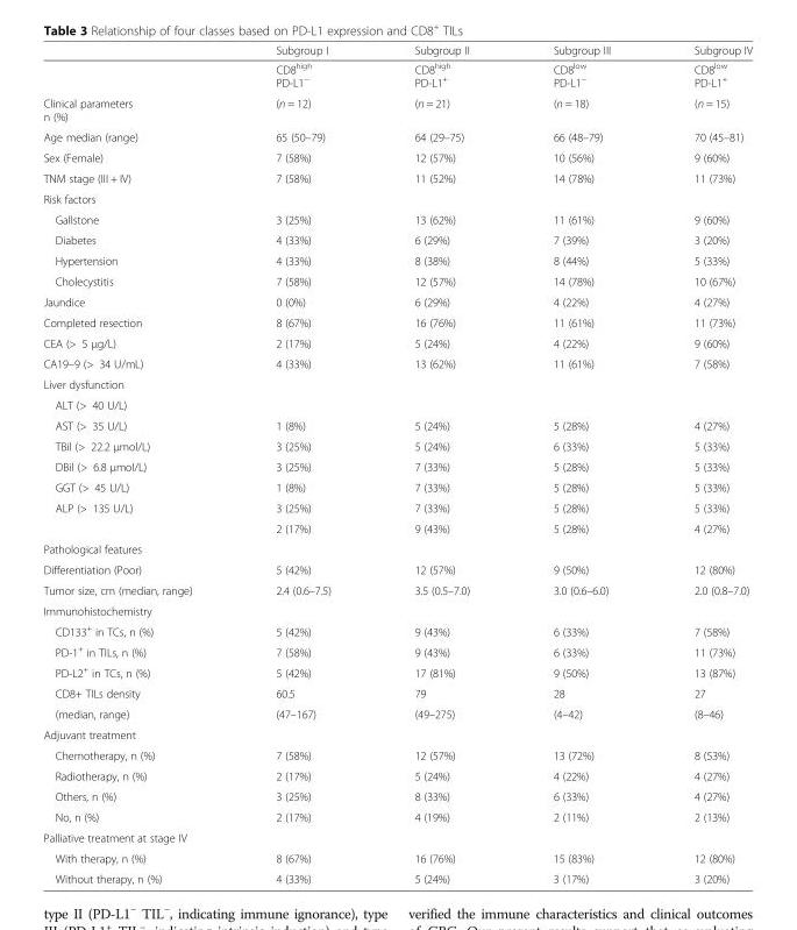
<table><thead><tr><td></td><td>Subgroup I</td><td>Subgroup II</td><td>Subgroup III</td><td>Subgroup IV</td></tr></thead><tbody><tr><td></td><td>CD8<sup>high</sup> PD-L1<sup>−</sup></td><td>CD8<sup>high</sup> PD-L1<sup>+</sup></td><td>CD8<sup>low</sup> PD-L1<sup>−</sup></td><td>CD8<sup>low</sup> PD-L1<sup>+</sup></td></tr><tr><td>Clinical parameters n (%)</td><td>(n = 12)</td><td>(n = 21)</td><td>(n = 18)</td><td>(n = 15)</td></tr><tr><td>Age median (range)</td><td>65 (50–79)</td><td>64 (29–75)</td><td>66 (48–79)</td><td>70 (45–81)</td></tr><tr><td>Sex (Female)</td><td>7 (58%)</td><td>12 (57%)</td><td>10 (56%)</td><td>9 (60%)</td></tr><tr><td>TNM stage (III + IV)</td><td>7 (58%)</td><td>11 (52%)</td><td>14 (78%)</td><td>11 (73%)</td></tr><tr><td colspan="5">Risk factors</td></tr><tr><td>Gallstone</td><td>3 (25%)</td><td>13 (62%)</td><td>11 (61%)</td><td>9 (60%)</td></tr><tr><td>Diabetes</td><td>4 (33%)</td><td>6 (29%)</td><td>7 (39%)</td><td>3 (20%)</td></tr><tr><td>Hypertension</td><td>4 (33%)</td><td>8 (38%)</td><td>8 (44%)</td><td>5 (33%)</td></tr><tr><td>Cholecystitis</td><td>7 (58%)</td><td>12 (57%)</td><td>14 (78%)</td><td>10 (67%)</td></tr><tr><td>Jaundice</td><td>0 (0%)</td><td>6 (29%)</td><td>4 (22%)</td><td>4 (27%)</td></tr><tr><td>Completed resection</td><td>8 (67%)</td><td>16 (76%)</td><td>11 (61%)</td><td>11 (73%)</td></tr><tr><td>CEA (&gt; 5 μg/L)</td><td>2 (17%)</td><td>5 (24%)</td><td>4 (22%)</td><td>9 (60%)</td></tr><tr><td>CA19–9 (&gt; 34 U/mL)</td><td>4 (33%)</td><td>13 (62%)</td><td>11 (61%)</td><td>7 (58%)</td></tr><tr><td colspan="5">Liver dysfunction</td></tr><tr><td colspan="5">ALT (&gt; 40 U/L)</td></tr><tr><td>AST (&gt; 35 U/L)</td><td>1 (8%)</td><td>5 (24%)</td><td>5 (28%)</td><td>4 (27%)</td></tr><tr><td>TBil (&gt; 22.2 μmol/L)</td><td>3 (25%)</td><td>5 (24%)</td><td>6 (33%)</td><td>5 (33%)</td></tr><tr><td>DBil (&gt; 6.8 μmol/L)</td><td>3 (25%)</td><td>7 (33%)</td><td>5 (28%)</td><td>5 (33%)</td></tr><tr><td>GGT (&gt; 45 U/L)</td><td>1 (8%)</td><td>7 (33%)</td><td>5 (28%)</td><td>5 (33%)</td></tr><tr><td rowspan="2">ALP (&gt; 135 U/L)</td><td>3 (25%)</td><td>7 (33%)</td><td>5 (28%)</td><td>5 (33%)</td></tr><tr><td>2 (17%)</td><td>9 (43%)</td><td>5 (28%)</td><td>4 (27%)</td></tr><tr><td colspan="5">Pathological features</td></tr><tr><td>Differentiation (Poor)</td><td>5 (42%)</td><td>12 (57%)</td><td>9 (50%)</td><td>12 (80%)</td></tr><tr><td>Tumor size, cm (median, range)</td><td>2.4 (0.6–7.5)</td><td>3.5 (0.5–7.0)</td><td>3.0 (0.6–6.0)</td><td>2.0 (0.8–7.0)</td></tr><tr><td colspan="5">Immunohistochemistry</td></tr><tr><td>CD133<sup>+</sup> in TCs, n (%)</td><td>5 (42%)</td><td>9 (43%)</td><td>6 (33%)</td><td>7 (58%)</td></tr><tr><td>PD-1<sup>+</sup> in TILs, n (%)</td><td>7 (58%)</td><td>9 (43%)</td><td>6 (33%)</td><td>11 (73%)</td></tr><tr><td>PD-L2<sup>+</sup> in TCs, n (%)</td><td>5 (42%)</td><td>17 (81%)</td><td>9 (50%)</td><td>13 (87%)</td></tr><tr><td>CD8+ TILs density</td><td>60.5</td><td>79</td><td>28</td><td>27</td></tr><tr><td>(median, range)</td><td>(47–167)</td><td>(49–275)</td><td>(4–42)</td><td>(8–46)</td></tr><tr><td colspan="5">Adjuvant treatment</td></tr><tr><td>Chemotherapy, n (%)</td><td>7 (58%)</td><td>12 (57%)</td><td>13 (72%)</td><td>8 (53%)</td></tr><tr><td>Radiotherapy, n (%)</td><td>2 (17%)</td><td>5 (24%)</td><td>4 (22%)</td><td>4 (27%)</td></tr><tr><td>Others, n (%)</td><td>3 (25%)</td><td>8 (33%)</td><td>6 (33%)</td><td>4 (27%)</td></tr><tr><td>No, n (%)</td><td>2 (17%)</td><td>4 (19%)</td><td>2 (11%)</td><td>2 (13%)</td></tr><tr><td colspan="5">Palliative treatment at stage IV</td></tr><tr><td>With therapy, n (%)</td><td>8 (67%)</td><td>16 (76%)</td><td>15 (83%)</td><td>12 (80%)</td></tr><tr><td>Without therapy, n (%)</td><td>4 (33%)</td><td>5 (24%)</td><td>3 (17%)</td><td>3 (20%)</td></tr></tbody></table>